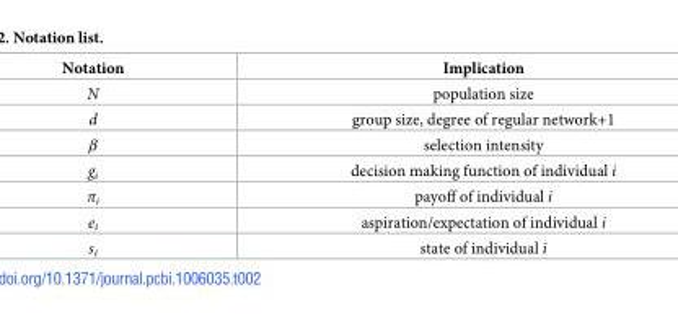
<table><thead><tr><td>Notation</td><td>Implication</td></tr></thead><tbody><tr><td>N</td><td>population size</td></tr><tr><td>d</td><td>group size, degree of regular network+1</td></tr><tr><td>β</td><td>selection intensity</td></tr><tr><td>g<sub>i</sub></td><td>decision making function of individual i</td></tr><tr><td>π<sub>i</sub></td><td>payoff of individual i</td></tr><tr><td>e<sub>i</sub></td><td>aspiration/expectation of individual i</td></tr><tr><td>s<sub>i</sub></td><td>state of individual i</td></tr></tbody></table>